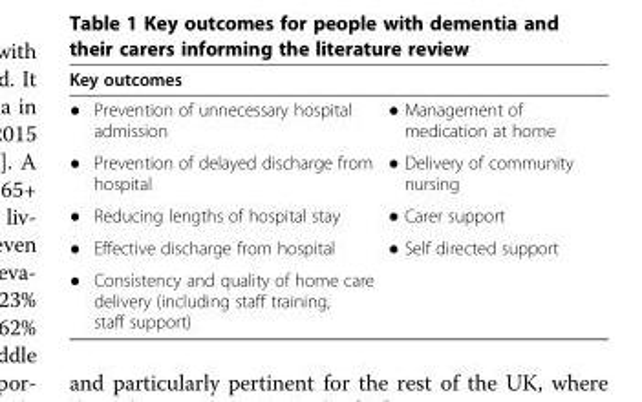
<table><thead><tr><td colspan="2">Key outcomes</td><td rowspan="2">● Management of medication at home</td></tr><tr><td>●</td><td>Prevention of unnecessary hospital admission</td></tr></thead><tbody><tr><td>●</td><td>Prevention of delayed discharge from hospital</td><td>● Delivery of community nursing</td></tr><tr><td>●</td><td>Reducing lengths of hospital stay</td><td>● Carer support</td></tr><tr><td>●</td><td>Effective discharge from hospital</td><td>● Self directed support</td></tr><tr><td>●</td><td>Consistency and quality of home care delivery (including staff training, staff support)</td><td></td></tr></tbody></table>